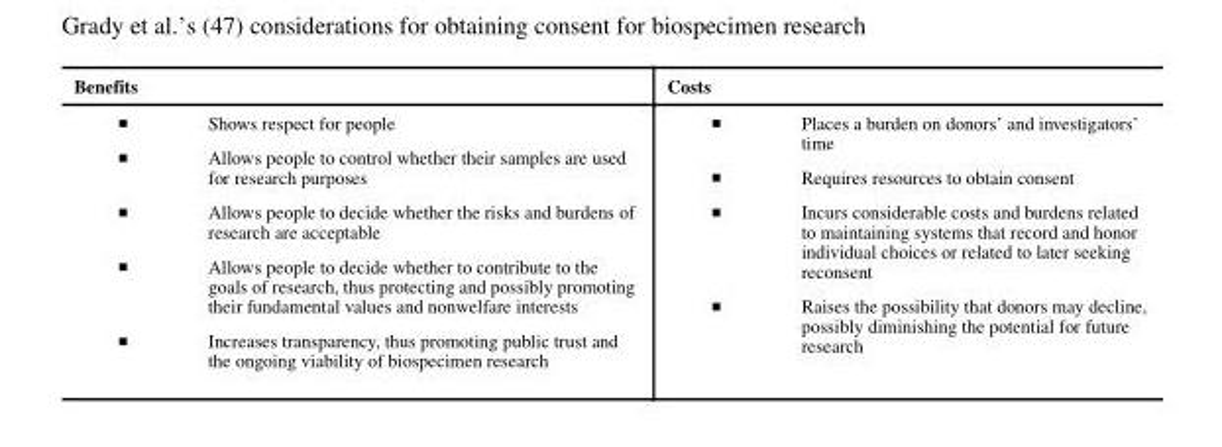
<table><thead><tr><td>Benefits</td><td>Costs</td></tr></thead><tbody><tr><td>▪ Shows respect for people ▪ Allows people to control whether their samples are used for research purposes ▪ Allows people to decide whether the risks and burdens of research are acceptable ▪ Allows people to decide whether to contribute to the goals of research, thus protecting and possibly promoting their fundamental values and nonwelfare interests ▪ Increases transparency, thus promoting public trust and the ongoing viability of biospecimen research</td><td>▪ Places a burden on donors’ and investigators’ time ▪ Requires resources to obtain consent ▪ Incurs considerable costs and burdens related to maintaining systems that record and honor individual choices or related to later seeking reconsent ▪ Raises the possibility that donors may decline, possibly diminishing the potential for future research</td></tr></tbody></table>